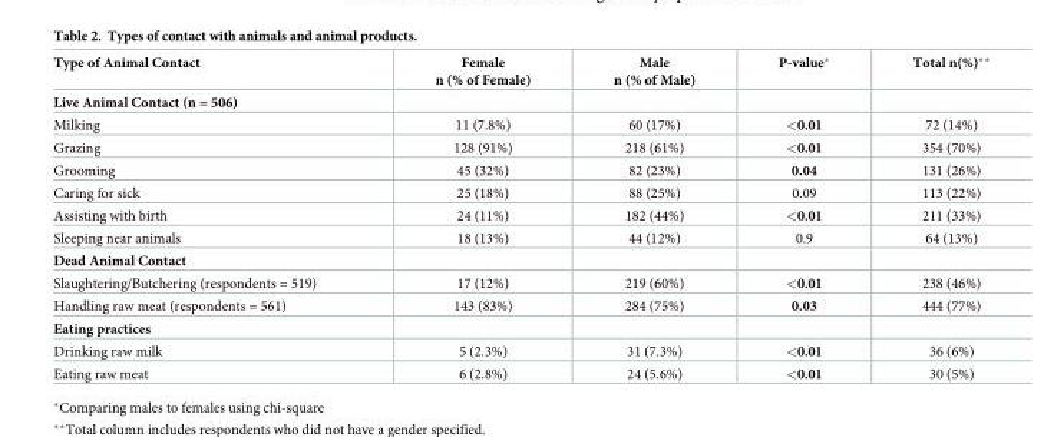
<table><thead><tr><td>Type of Animal Contact</td><td>Female n (% of Female)</td><td>Male n (% of Male)</td><td>P-value*</td><td>Total n(%)**</td></tr></thead><tbody><tr><td colspan="5">Live Animal Contact (n = 506)</td></tr><tr><td>Milking</td><td>11 (7.8%)</td><td>60 (17%)</td><td>&lt;0.01</td><td>72 (14%)</td></tr><tr><td>Grazing</td><td>128 (91%)</td><td>218 (61%)</td><td>&lt;0.01</td><td>354 (70%)</td></tr><tr><td>Grooming</td><td>45 (32%)</td><td>82 (23%)</td><td>0.04</td><td>131 (26%)</td></tr><tr><td>Caring for sick</td><td>25 (18%)</td><td>88 (25%)</td><td>0.09</td><td>113 (22%)</td></tr><tr><td>Assisting with birth</td><td>24 (11%)</td><td>182 (44%)</td><td>&lt;0.01</td><td>211 (33%)</td></tr><tr><td>Sleeping near animals</td><td>18 (13%)</td><td>44 (12%)</td><td>0.9</td><td>64 (13%)</td></tr><tr><td colspan="5">Dead Animal Contact</td></tr><tr><td>Slaughtering/Butchering (respondents = 519)</td><td>17 (12%)</td><td>219 (60%)</td><td>&lt;0.01</td><td>238 (46%)</td></tr><tr><td>Handling raw meat (respondents = 561)</td><td>143 (83%)</td><td>284 (75%)</td><td>0.03</td><td>444 (77%)</td></tr><tr><td colspan="5">Eating practices</td></tr><tr><td>Drinking raw milk</td><td>5 (2.3%)</td><td>31 (7.3%)</td><td>&lt;0.01</td><td>36 (6%)</td></tr><tr><td>Eating raw meat</td><td>6 (2.8%)</td><td>24 (5.6%)</td><td>&lt;0.01</td><td>30 (5%)</td></tr></tbody></table>